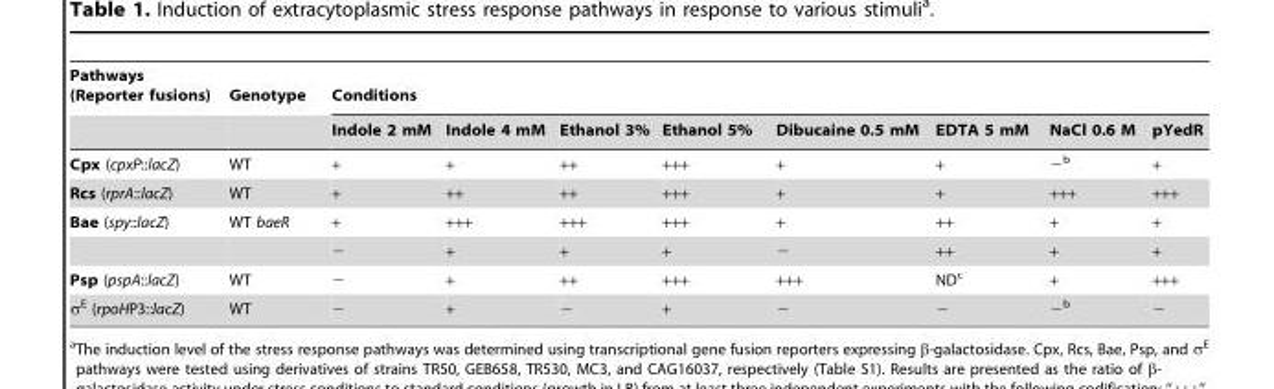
<table><thead><tr><td rowspan="2">Pathways (Reporter fusions)</td><td rowspan="2">Genotype</td><td colspan="8">Conditions</td></tr><tr><td>Indole 2 mM</td><td>Indole 4 mM</td><td>Ethanol 3%</td><td>Ethanol 5%</td><td>Dibucaine 0.5 mM</td><td>EDTA 5 mM</td><td>NaCl 0.6 M</td><td>pYedR</td></tr></thead><tbody><tr><td>Cpx (cpxP::lacZ)</td><td>WT</td><td>+</td><td>+</td><td>++</td><td>+++</td><td>+</td><td>+</td><td>−b</td><td>+</td></tr><tr><td>Rcs (rprA::lacZ)</td><td>WT</td><td>+</td><td>++</td><td>++</td><td>+++</td><td>+</td><td>+</td><td>+++</td><td>+++</td></tr><tr><td rowspan="2">Bae (spy::lacZ)</td><td>WT baeR</td><td>+</td><td>+++</td><td>+++</td><td>+++</td><td>+</td><td>++</td><td>+</td><td>+</td></tr><tr><td></td><td>−</td><td>+</td><td>+</td><td>+</td><td>−</td><td>++</td><td>+</td><td>+</td></tr><tr><td>Psp (pspA::lacZ)</td><td>WT</td><td>−</td><td>+</td><td>++</td><td>+++</td><td>+++</td><td>ND<sup>c</sup></td><td>+</td><td>+++</td></tr><tr><td>σ<sup>E</sup> (rpoHP3::lacZ)</td><td>WT</td><td>−</td><td>+</td><td>−</td><td>+</td><td>−</td><td>−</td><td>−b</td><td>−</td></tr></tbody></table>